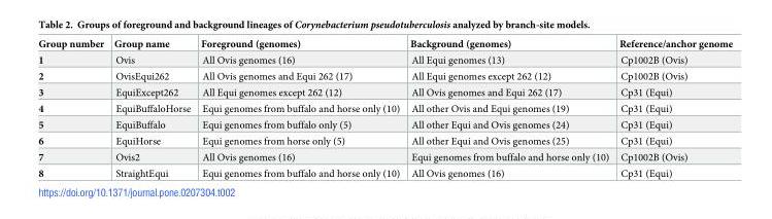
<table><thead><tr><td>Group number</td><td>Group name</td><td>Foreground (genomes)</td><td>Background (genomes)</td><td>Reference/anchor genome</td></tr></thead><tbody><tr><td>1</td><td>Ovis</td><td>All Ovis genomes (16)</td><td>All Equi genomes (13)</td><td>Cp1002B (Ovis)</td></tr><tr><td>2</td><td>OvisEqui262</td><td>All Ovis genomes and Equi 262 (17)</td><td>All Equi genomes except 262 (12)</td><td>Cp1002B (Ovis)</td></tr><tr><td>3</td><td>EquiExcept262</td><td>All Equi genomes except 262 (12)</td><td>All Ovis genomes and Equi 262 (17)</td><td>Cp31 (Equi)</td></tr><tr><td>4</td><td>EquiBuffaloHorse</td><td>Equi genomes from buffalo and horse only (10)</td><td>All other Ovis and Equi genomes (19)</td><td>Cp31 (Equi)</td></tr><tr><td>5</td><td>EquiBuffalo</td><td>Equi genomes from buffalo only (5)</td><td>All other Equi and Ovis genomes (24)</td><td>Cp31 (Equi)</td></tr><tr><td>6</td><td>EquiHorse</td><td>Equi genomes from horse only (5)</td><td>All other Equi and Ovis genomes (25)</td><td>Cp31 (Equi)</td></tr><tr><td>7</td><td>Ovis2</td><td>All Ovis genomes (16)</td><td>Equi genomes from buffalo and horse only (10)</td><td>Cp1002B (Ovis)</td></tr><tr><td>8</td><td>StraightEqui</td><td>Equi genomes from buffalo and horse only (10)</td><td>All Ovis genomes (16)</td><td>Cp31 (Equi)</td></tr></tbody></table>